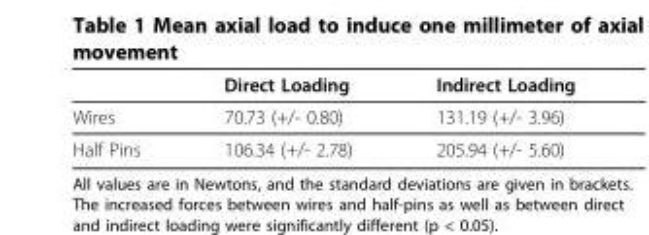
<table><thead><tr><td></td><td>Direct Loading</td><td>Indirect Loading</td></tr></thead><tbody><tr><td>Wires</td><td>70.73 (+/- 0.80)</td><td>131.19 (+/- 3.96)</td></tr><tr><td>Half Pins</td><td>106.34 (+/- 2.78)</td><td>205.94 (+/- 5.60)</td></tr></tbody></table>